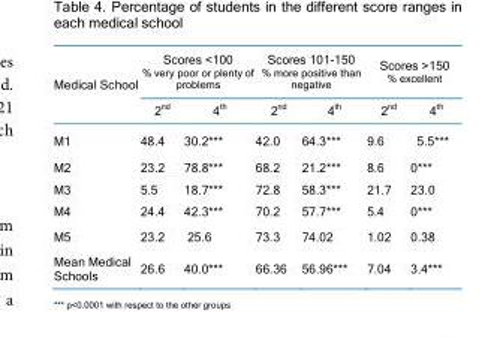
<table><thead><tr><td rowspan="2">Medical School</td><td colspan="2">Scores &lt;100 % very poor or plenty of problems</td><td colspan="2">Scores 101-150 % more positive than negative</td><td colspan="2">Scores &gt;150 % excellent</td></tr><tr><td>2<sup>nd</sup></td><td>4<sup>th</sup></td><td>2<sup>nd</sup></td><td>4<sup>th</sup></td><td>2<sup>nd</sup></td><td>4<sup>th</sup></td></tr></thead><tbody><tr><td>M1</td><td>48.4</td><td>30.2***</td><td>42.0</td><td>64.3***</td><td>9.6</td><td>5.5***</td></tr><tr><td>M2</td><td>23.2</td><td>78.8***</td><td>68.2</td><td>21.2***</td><td>8.6</td><td>0***</td></tr><tr><td>M3</td><td>5.5</td><td>18.7***</td><td>72.8</td><td>58.3***</td><td>21.7</td><td>23.0</td></tr><tr><td>M4</td><td>24.4</td><td>42.3***</td><td>70.2</td><td>57.7***</td><td>5.4</td><td>0***</td></tr><tr><td>M5</td><td>23.2</td><td>25.6</td><td>73.3</td><td>74.02</td><td>1.02</td><td>0.38</td></tr><tr><td>Mean Medical Schools</td><td>26.6</td><td>40.0***</td><td>66.36</td><td>56.96***</td><td>7.04</td><td>3.4***</td></tr></tbody></table>